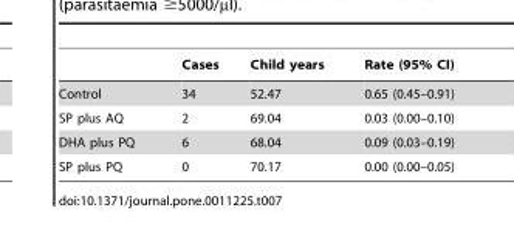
<table><thead><tr><td></td><td>Cases</td><td>Child years</td><td>Rate (95% CI)</td></tr></thead><tbody><tr><td>Control</td><td>34</td><td>52.47</td><td>0.65 (0.45–0.91)</td></tr><tr><td>SP plus AQ</td><td>2</td><td>69.04</td><td>0.03 (0.00–0.10)</td></tr><tr><td>DHA plus PQ</td><td>6</td><td>68.04</td><td>0.09 (0.03–0.19)</td></tr><tr><td>SP plus PQ</td><td>0</td><td>70.17</td><td>0.00 (0.00–0.05)</td></tr></tbody></table>